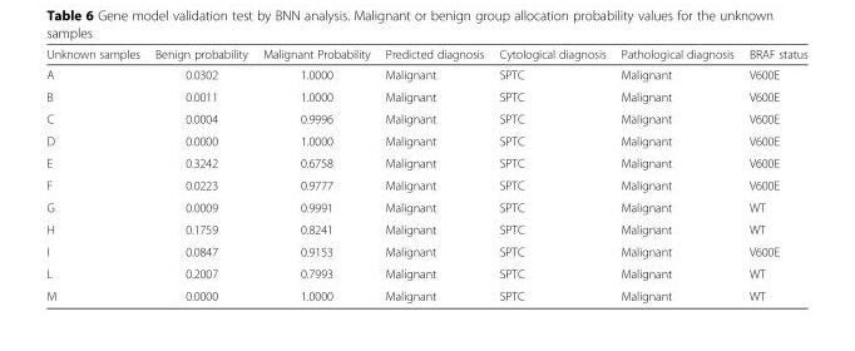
<table><thead><tr><td>Unknown samples</td><td>Benign probability</td><td>Malignant Probability</td><td>Predicted diagnosis</td><td>Cytological diagnosis</td><td>Pathological diagnosis</td><td>BRAF status</td></tr></thead><tbody><tr><td>A</td><td>0.0302</td><td>1.0000</td><td>Malignant</td><td>SPTC</td><td>Malignant</td><td>V600E</td></tr><tr><td>B</td><td>0.0011</td><td>1.0000</td><td>Malignant</td><td>SPTC</td><td>Malignant</td><td>V600E</td></tr><tr><td>C</td><td>0.0004</td><td>0.9996</td><td>Malignant</td><td>SPTC</td><td>Malignant</td><td>V600E</td></tr><tr><td>D</td><td>0.0000</td><td>1.0000</td><td>Malignant</td><td>SPTC</td><td>Malignant</td><td>V600E</td></tr><tr><td>E</td><td>0.3242</td><td>0.6758</td><td>Malignant</td><td>SPTC</td><td>Malignant</td><td>V600E</td></tr><tr><td>F</td><td>0.0223</td><td>0.9777</td><td>Malignant</td><td>SPTC</td><td>Malignant</td><td>V600E</td></tr><tr><td>G</td><td>0.0009</td><td>0.9991</td><td>Malignant</td><td>SPTC</td><td>Malignant</td><td>WT</td></tr><tr><td>H</td><td>0.1759</td><td>0.8241</td><td>Malignant</td><td>SPTC</td><td>Malignant</td><td>WT</td></tr><tr><td>I</td><td>0.0847</td><td>0.9153</td><td>Malignant</td><td>SPTC</td><td>Malignant</td><td>V600E</td></tr><tr><td>L</td><td>0.2007</td><td>0.7993</td><td>Malignant</td><td>SPTC</td><td>Malignant</td><td>WT</td></tr><tr><td>M</td><td>0.0000</td><td>1.0000</td><td>Malignant</td><td>SPTC</td><td>Malignant</td><td>WT</td></tr></tbody></table>